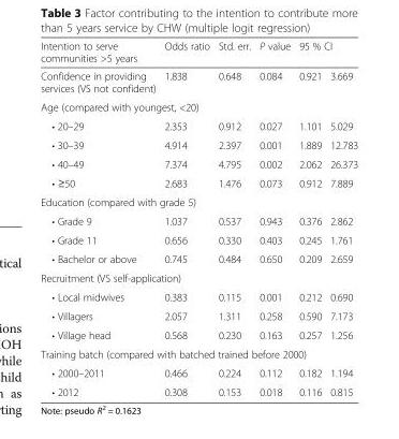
<table><thead><tr><td rowspan="2">Intention to serve communities &gt;5 years Confidence in providing services (VS not confident)</td><td rowspan="2">Odds ratio 1.838</td><td rowspan="2">Std. err. 0.648</td><td rowspan="2">P value 0.084</td><td colspan="2">95 % CI</td></tr><tr><td>0.921</td><td>3.669</td></tr></thead><tbody><tr><td colspan="6">Age (compared with youngest, &lt;20)</td></tr><tr><td>• 20–29</td><td>2.353</td><td>0.912</td><td>0.027</td><td>1.101</td><td>5.029</td></tr><tr><td>• 30–39</td><td>4.914</td><td>2.397</td><td>0.001</td><td>1.889</td><td>12.783</td></tr><tr><td>• 40–49</td><td>7.374</td><td>4.795</td><td>0.002</td><td>2.062</td><td>26.373</td></tr><tr><td>• ≥50</td><td>2.683</td><td>1.476</td><td>0.073</td><td>0.912</td><td>7.889</td></tr><tr><td colspan="6">Education (compared with grade 5)</td></tr><tr><td>• Grade 9</td><td>1.037</td><td>0.537</td><td>0.943</td><td>0.376</td><td>2.862</td></tr><tr><td>• Grade 11</td><td>0.656</td><td>0.330</td><td>0.403</td><td>0.245</td><td>1.761</td></tr><tr><td>• Bachelor or above</td><td>0.745</td><td>0.484</td><td>0.650</td><td>0.209</td><td>2.659</td></tr><tr><td colspan="6">Recruitment (VS self-application)</td></tr><tr><td>• Local midwives</td><td>0.383</td><td>0.115</td><td>0.001</td><td>0.212</td><td>0.690</td></tr><tr><td>• Villagers</td><td>2.057</td><td>1.311</td><td>0.258</td><td>0.590</td><td>7.173</td></tr><tr><td>• Village head</td><td>0.568</td><td>0.230</td><td>0.163</td><td>0.257</td><td>1.256</td></tr><tr><td colspan="6">Training batch (compared with batched trained before 2000)</td></tr><tr><td>• 2000–2011</td><td>0.466</td><td>0.224</td><td>0.112</td><td>0.182</td><td>1.194</td></tr><tr><td>• 2012</td><td>0.308</td><td>0.153</td><td>0.018</td><td>0.116</td><td>0.815</td></tr></tbody></table>